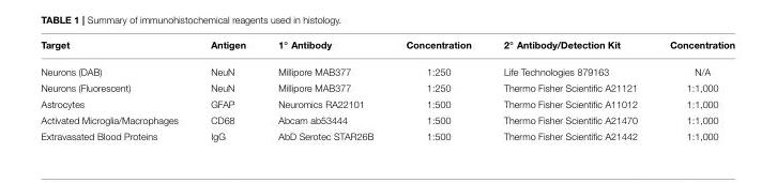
<table><thead><tr><td>Target</td><td>Antigen</td><td>1◦ Antibody</td><td>Concentration</td><td>2◦ Antibody/Detection Kit</td><td>Concentration</td></tr></thead><tbody><tr><td>Neurons (DAB)</td><td>NeuN</td><td>Millipore MAB377</td><td>1:250</td><td>Life Technologies 879163</td><td>N/A</td></tr><tr><td>Neurons (Fluorescent)</td><td>NeuN</td><td>Millipore MAB377</td><td>1:250</td><td>Thermo Fisher Scientific A21121</td><td>1:1,000</td></tr><tr><td>Astrocytes</td><td>GFAP</td><td>Neuromics RA22101</td><td>1:500</td><td>Thermo Fisher Scientific A11012</td><td>1:1,000</td></tr><tr><td>Activated Microglia/Macrophages</td><td>CD68</td><td>Abcam ab53444</td><td>1:500</td><td>Thermo Fisher Scientific A21470</td><td>1:1,000</td></tr><tr><td>Extravasated Blood Proteins</td><td>IgG</td><td>AbD Serotec STAR26B</td><td>1:500</td><td>Thermo Fisher Scientific A21442</td><td>1:1,000</td></tr></tbody></table>